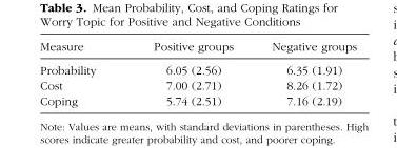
<table><thead><tr><td>Measure</td><td>Positive groups</td><td>Negative groups</td></tr></thead><tbody><tr><td>Probability</td><td>6.05 (2.56)</td><td>6.35 (1.91)</td></tr><tr><td>Cost</td><td>7.00 (2.71)</td><td>8.26 (1.72)</td></tr><tr><td>Coping</td><td>5.74 (2.51)</td><td>7.16 (2.19)</td></tr></tbody></table>